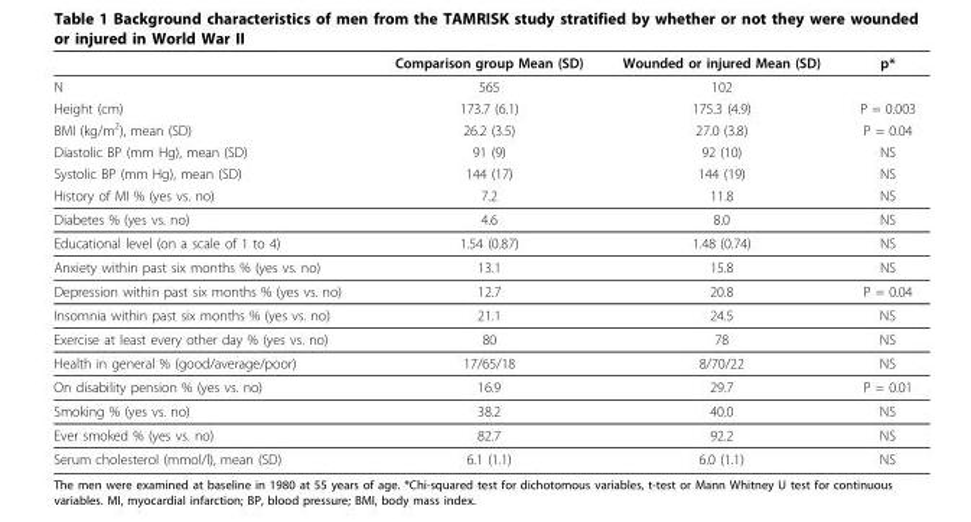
<table><thead><tr><td></td><td>Comparison group Mean (SD)</td><td>Wounded or injured Mean (SD)</td><td>p*</td></tr></thead><tbody><tr><td>N</td><td>565</td><td>102</td><td></td></tr><tr><td>Height (cm)</td><td>173.7 (6.1)</td><td>175.3 (4.9)</td><td>P = 0.003</td></tr><tr><td>BMI (kg/m<sup>2</sup>), mean (SD)</td><td>26.2 (3.5)</td><td>27.0 (3.8)</td><td>P = 0.04</td></tr><tr><td>Diastolic BP (mm Hg), mean (SD)</td><td>91 (9)</td><td>92 (10)</td><td>NS</td></tr><tr><td>Systolic BP (mm Hg), mean (SD)</td><td>144 (17)</td><td>144 (19)</td><td>NS</td></tr><tr><td>History of MI % (yes vs. no)</td><td>7.2</td><td>11.8</td><td>NS</td></tr><tr><td>Diabetes % (yes vs. no)</td><td>4.6</td><td>8.0</td><td>NS</td></tr><tr><td>Educational level (on a scale of 1 to 4)</td><td>1.54 (0.87)</td><td>1.48 (0.74)</td><td>NS</td></tr><tr><td>Anxiety within past six months % (yes vs. no)</td><td>13.1</td><td>15.8</td><td>NS</td></tr><tr><td>Depression within past six months % (yes vs. no)</td><td>12.7</td><td>20.8</td><td>P = 0.04</td></tr><tr><td>Insomnia within past six months % (yes vs. no)</td><td>21.1</td><td>24.5</td><td>NS</td></tr><tr><td>Exercise at least every other day % (yes vs. no)</td><td>80</td><td>78</td><td>NS</td></tr><tr><td>Health in general % (good/average/poor)</td><td>17/65/18</td><td>8/70/22</td><td>NS</td></tr><tr><td>On disability pension % (yes vs. no)</td><td>16.9</td><td>29.7</td><td>P = 0.01</td></tr><tr><td>Smoking % (yes vs. no)</td><td>38.2</td><td>40.0</td><td>NS</td></tr><tr><td>Ever smoked % (yes vs. no)</td><td>82.7</td><td>92.2</td><td>NS</td></tr><tr><td>Serum cholesterol (mmol/l), mean (SD)</td><td>6.1 (1.1)</td><td>6.0 (1.1)</td><td>NS</td></tr></tbody></table>